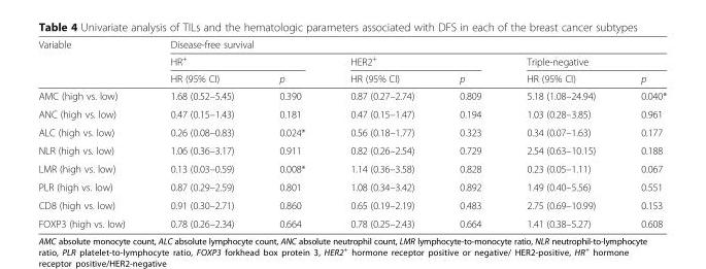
<table><thead><tr><td rowspan="3">Variable</td><td colspan="6">Disease-free survival</td></tr><tr><td colspan="2">HR<sup>+</sup></td><td colspan="2">HER2<sup>+</sup></td><td colspan="2">Triple-negative</td></tr><tr><td>HR (95% CI)</td><td>p</td><td>HR (95% CI)</td><td>p</td><td>HR (95% CI)</td><td>p</td></tr></thead><tbody><tr><td>AMC (high vs. low)</td><td>1.68 (0.52–5.45)</td><td>0.390</td><td>0.87 (0.27–2.74)</td><td>0.809</td><td>5.18 (1.08–24.94)</td><td>0.040*</td></tr><tr><td>ANC (high vs. low)</td><td>0.47 (0.15–1.43)</td><td>0.181</td><td>0.47 (0.15–1.47)</td><td>0.194</td><td>1.03 (0.28–3.85)</td><td>0.961</td></tr><tr><td>ALC (high vs. low)</td><td>0.26 (0.08–0.83)</td><td>0.024*</td><td>0.56 (0.18–1.77)</td><td>0.323</td><td>0.34 (0.07–1.63)</td><td>0.177</td></tr><tr><td>NLR (high vs. low)</td><td>1.06 (0.36–3.17)</td><td>0.911</td><td>0.82 (0.26–2.54)</td><td>0.729</td><td>2.54 (0.63–10.15)</td><td>0.188</td></tr><tr><td>LMR (high vs. low)</td><td>0.13 (0.03–0.59)</td><td>0.008*</td><td>1.14 (0.36–3.58)</td><td>0.828</td><td>0.23 (0.05–1.11)</td><td>0.067</td></tr><tr><td>PLR (high vs. low)</td><td>0.87 (0.29–2.59)</td><td>0.801</td><td>1.08 (0.34–3.42)</td><td>0.892</td><td>1.49 (0.40–5.56)</td><td>0.551</td></tr><tr><td>CD8 (high vs. low)</td><td>0.91 (0.30–2.71)</td><td>0.860</td><td>0.65 (0.19–2.19)</td><td>0.483</td><td>2.75 (0.69–10.99)</td><td>0.153</td></tr><tr><td>FOXP3 (high vs. low)</td><td>0.78 (0.26–2.34)</td><td>0.664</td><td>0.78 (0.25–2.43)</td><td>0.664</td><td>1.41 (0.38–5.27)</td><td>0.608</td></tr></tbody></table>